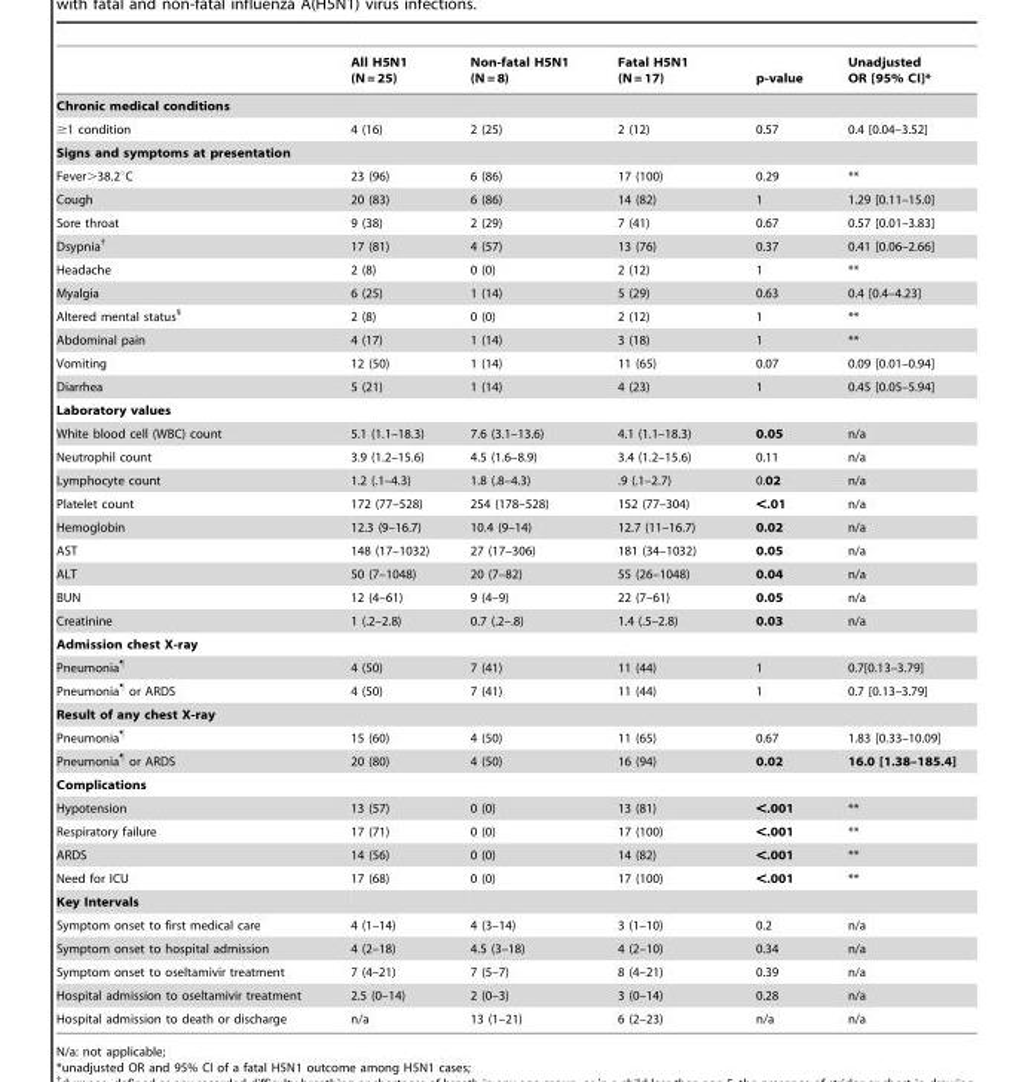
<table><thead><tr><td></td><td>All H5N1 (N = 25)</td><td>Non-fatal H5N1 (N = 8)</td><td>Fatal H5N1 (N = 17)</td><td>p-value</td><td>Unadjusted OR [95% CI]*</td></tr></thead><tbody><tr><td colspan="6">Chronic medical conditions</td></tr><tr><td>≥1 condition</td><td>4 (16)</td><td>2 (25)</td><td>2 (12)</td><td>0.57</td><td>0.4 [0.04–3.52]</td></tr><tr><td colspan="6">Signs and symptoms at presentation</td></tr><tr><td>Fever&gt;38.2°C</td><td>23 (96)</td><td>6 (86)</td><td>17 (100)</td><td>0.29</td><td>**</td></tr><tr><td>Cough</td><td>20 (83)</td><td>6 (86)</td><td>14 (82)</td><td>1</td><td>1.29 [0.11–15.0]</td></tr><tr><td>Sore throat</td><td>9 (38)</td><td>2 (29)</td><td>7 (41)</td><td>0.67</td><td>0.57 [0.01–3.83]</td></tr><tr><td>Dsypnia†</td><td>17 (81)</td><td>4 (57)</td><td>13 (76)</td><td>0.37</td><td>0.41 [0.06–2.66]</td></tr><tr><td>Headache</td><td>2 (8)</td><td>0 (0)</td><td>2 (12)</td><td>1</td><td>**</td></tr><tr><td>Myalgia</td><td>6 (25)</td><td>1 (14)</td><td>5 (29)</td><td>0.63</td><td>0.4 [0.4–4.23]</td></tr><tr><td>Altered mental status§</td><td>2 (8)</td><td>0 (0)</td><td>2 (12)</td><td>1</td><td>**</td></tr><tr><td>Abdominal pain</td><td>4 (17)</td><td>1 (14)</td><td>3 (18)</td><td>1</td><td>**</td></tr><tr><td>Vomiting</td><td>12 (50)</td><td>1 (14)</td><td>11 (65)</td><td>0.07</td><td>0.09 [0.01–0.94]</td></tr><tr><td>Diarrhea</td><td>5 (21)</td><td>1 (14)</td><td>4 (23)</td><td>1</td><td>0.45 [0.05–5.94]</td></tr><tr><td colspan="6">Laboratory values</td></tr><tr><td>White blood cell (WBC) count</td><td>5.1 (1.1–18.3)</td><td>7.6 (3.1–13.6)</td><td>4.1 (1.1–18.3)</td><td>0.05</td><td>n/a</td></tr><tr><td>Neutrophil count</td><td>3.9 (1.2–15.6)</td><td>4.5 (1.6–8.9)</td><td>3.4 (1.2–15.6)</td><td>0.11</td><td>n/a</td></tr><tr><td>Lymphocyte count</td><td>1.2 (.1–4.3)</td><td>1.8 (.8–4.3)</td><td>.9 (.1–2.7)</td><td>0.02</td><td>n/a</td></tr><tr><td>Platelet count</td><td>172 (77–528)</td><td>254 (178–528)</td><td>152 (77–304)</td><td>&lt;.01</td><td>n/a</td></tr><tr><td>Hemoglobin</td><td>12.3 (9–16.7)</td><td>10.4 (9–14)</td><td>12.7 (11–16.7)</td><td>0.02</td><td>n/a</td></tr><tr><td>AST</td><td>148 (17–1032)</td><td>27 (17–306)</td><td>181 (34–1032)</td><td>0.05</td><td>n/a</td></tr><tr><td>ALT</td><td>50 (7–1048)</td><td>20 (7–82)</td><td>55 (26–1048)</td><td>0.04</td><td>n/a</td></tr><tr><td>BUN</td><td>12 (4–61)</td><td>9 (4–9)</td><td>22 (7–61)</td><td>0.05</td><td>n/a</td></tr><tr><td>Creatinine</td><td>1 (.2–2.8)</td><td>0.7 (.2–.8)</td><td>1.4 (.5–2.8)</td><td>0.03</td><td>n/a</td></tr><tr><td colspan="6">Admission chest X-ray</td></tr><tr><td>Pneumonia¶</td><td>4 (50)</td><td>7 (41)</td><td>11 (44)</td><td>1</td><td>0.7[0.13–3.79]</td></tr><tr><td>Pneumonia¶ or ARDS</td><td>4 (50)</td><td>7 (41)</td><td>11 (44)</td><td>1</td><td>0.7 [0.13–3.79]</td></tr><tr><td colspan="6">Result of any chest X-ray</td></tr><tr><td>Pneumonia¶</td><td>15 (60)</td><td>4 (50)</td><td>11 (65)</td><td>0.67</td><td>1.83 [0.33–10.09]</td></tr><tr><td>Pneumonia¶ or ARDS</td><td>20 (80)</td><td>4 (50)</td><td>16 (94)</td><td>0.02</td><td>16.0 [1.38–185.4]</td></tr><tr><td colspan="6">Complications</td></tr><tr><td>Hypotension</td><td>13 (57)</td><td>0 (0)</td><td>13 (81)</td><td>&lt;.001</td><td>**</td></tr><tr><td>Respiratory failure</td><td>17 (71)</td><td>0 (0)</td><td>17 (100)</td><td>&lt;.001</td><td>**</td></tr><tr><td>ARDS</td><td>14 (56)</td><td>0 (0)</td><td>14 (82)</td><td>&lt;.001</td><td>**</td></tr><tr><td>Need for ICU</td><td>17 (68)</td><td>0 (0)</td><td>17 (100)</td><td>&lt;.001</td><td>**</td></tr><tr><td colspan="6">Key Intervals</td></tr><tr><td>Symptom onset to first medical care</td><td>4 (1–14)</td><td>4 (3–14)</td><td>3 (1–10)</td><td>0.2</td><td>n/a</td></tr><tr><td>Symptom onset to hospital admission</td><td>4 (2–18)</td><td>4.5 (3–18)</td><td>4 (2–10)</td><td>0.34</td><td>n/a</td></tr><tr><td>Symptom onset to oseltamivir treatment</td><td>7 (4–21)</td><td>7 (5–7)</td><td>8 (4–21)</td><td>0.39</td><td>n/a</td></tr><tr><td>Hospital admission to oseltamivir treatment</td><td>2.5 (0–14)</td><td>2 (0–3)</td><td>3 (0–14)</td><td>0.28</td><td>n/a</td></tr><tr><td>Hospital admission to death or discharge</td><td>n/a</td><td>13 (1–21)</td><td>6 (2–23)</td><td>n/a</td><td>n/a</td></tr></tbody></table>